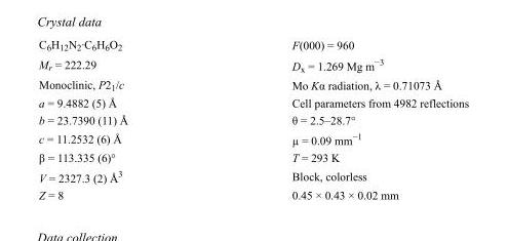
<table><tbody><tr><td>C<sub>6</sub>H<sub>12</sub>N<sub>2</sub>·C<sub>6</sub>H<sub>6</sub>O<sub>2</sub></td><td>F(000) = 960</td></tr><tr><td>M<sub>r</sub> = 222.29</td><td>D<sub>x</sub> = 1.269 Mg m<sup>−3</sup></td></tr><tr><td>Monoclinic, P2<sub>1</sub>/c</td><td>Mo Kα radiation, λ = 0.71073 Å</td></tr><tr><td>a = 9.4882 (5) Å</td><td>Cell parameters from 4982 reflections</td></tr><tr><td>b = 23.7390 (11) Å</td><td>θ = 2.5–28.7°</td></tr><tr><td>c = 11.2532 (6) Å</td><td>µ = 0.09 mm<sup>−1</sup></td></tr><tr><td>β = 113.335 (6)°</td><td>T = 293 K</td></tr><tr><td>V = 2327.3 (2) Å<sup>3</sup></td><td>Block, colorless</td></tr><tr><td>Z = 8</td><td>0.45 × 0.43 × 0.02 mm</td></tr></tbody></table>